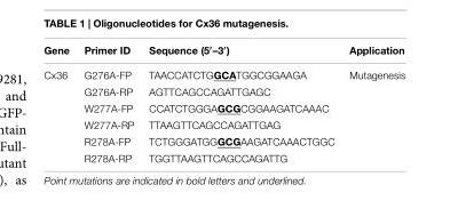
<table><thead><tr><td>Gene</td><td>Primer ID</td><td>Sequence (5′–3′)</td><td>Application</td></tr></thead><tbody><tr><td rowspan="6">Cx36</td><td>G276A-FP</td><td>TAACCATCTGGCATGGCGGAAGA</td><td>Mutagenesis</td></tr><tr><td>G276A-RP</td><td>AGTTCAGCCAGATTGAGC</td><td></td></tr><tr><td>W277A-FP</td><td>CCATCTGGGAGCGCGGAAGATCAAAC</td><td></td></tr><tr><td>W277A-RP</td><td>TTAAGTTCAGCCAGATTGAG</td><td></td></tr><tr><td>R278A-FP</td><td>TCTGGGATGGGCGAAGATCAAACTGGC</td><td></td></tr><tr><td>R278A-RP</td><td>TGGTTAAGTTCAGCCAGATTG</td><td></td></tr></tbody></table>